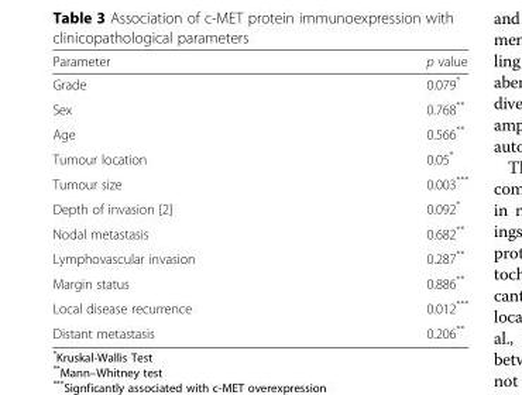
<table><thead><tr><td>Parameter</td><td>p value</td></tr></thead><tbody><tr><td>Grade</td><td>0.079*</td></tr><tr><td>Sex</td><td>0.768**</td></tr><tr><td>Age</td><td>0.566**</td></tr><tr><td>Tumour location</td><td>0.05*</td></tr><tr><td>Tumour size</td><td>0.003***</td></tr><tr><td>Depth of invasion [2]</td><td>0.092*</td></tr><tr><td>Nodal metastasis</td><td>0.682**</td></tr><tr><td>Lymphovascular invasion</td><td>0.287**</td></tr><tr><td>Margin status</td><td>0.886**</td></tr><tr><td>Local disease recurrence</td><td>0.012***</td></tr><tr><td>Distant metastasis</td><td>0.206**</td></tr></tbody></table>